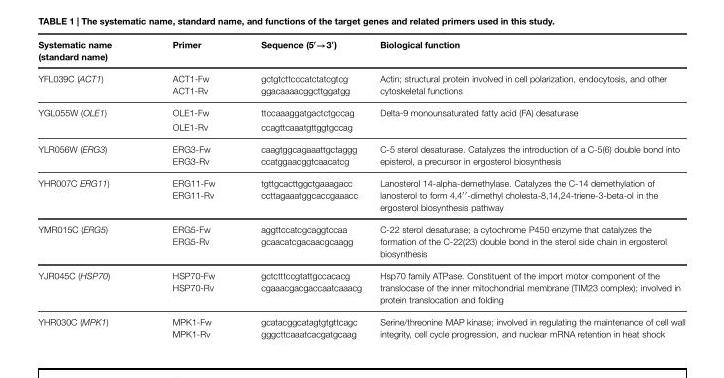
<table><thead><tr><td>Systematic name (standard name)</td><td>Primer</td><td>Sequence (5′→3′)</td><td>Biological function</td></tr></thead><tbody><tr><td>YFL039C (ACT1)</td><td>ACT1-Fw ACT1-Rv</td><td>gctgtcttcccatctatcgtcg ggacaaaacggcttggatgg</td><td>Actin; structural protein involved in cell polarization, endocytosis, and other cytoskeletal functions</td></tr><tr><td rowspan="2">YGL055W (OLE1)</td><td>OLE1-Fw</td><td>ttccaaaggatgactctgccag</td><td>Delta-9 monounsaturated fatty acid (FA) desaturase</td></tr><tr><td>OLE1-Rv</td><td>ccagttcaaatgttggtgccag</td><td></td></tr><tr><td>YLR056W (ERG3)</td><td>ERG3-Fw ERG3-Rv</td><td>caagtggcagaaattgctaggg ccatggaacggtcaacatcg</td><td>C-5 sterol desaturase. Catalyzes the introduction of a C-5(6) double bond into episterol, a precursor in ergosterol biosynthesis</td></tr><tr><td>YHR007C ERG11)</td><td>ERG11-Fw ERG11-Rv</td><td>tgttgcacttggctgaaagacc ccttagaaatggcaccgaaacc</td><td>Lanosterol 14-alpha-demethylase. Catalyzes the C-14 demethylation of lanosterol to form 4,4′′-dimethyl cholesta-8,14,24-triene-3-beta-ol in the ergosterol biosynthesis pathway</td></tr><tr><td>YMR015C (ERG5)</td><td>ERG5-Fw ERG5-Rv</td><td>aggttccatcgcaggtccaa gcaacatcgacaacgcaagg</td><td>C-22 sterol desaturase; a cytochrome P450 enzyme that catalyzes the formation of the C-22(23) double bond in the sterol side chain in ergosterol biosynthesis</td></tr><tr><td>YJR045C (HSP70)</td><td>HSP70-Fw HSP70-Rv</td><td>gctctttccgtattgccacacg cgaaacgacgaccaatcaaacg</td><td>Hsp70 family ATPase. Constituent of the import motor component of the translocase of the inner mitochondrial membrane (TIM23 complex); involved in protein translocation and folding</td></tr><tr><td>YHR030C (MPK1)</td><td>MPK1-Fw MPK1-Rv</td><td>gcatacggcatagtgtgttcagc gggcttcaaatcacgatgcaag</td><td>Serine/threonine MAP kinase; involved in regulating the maintenance of cell wall integrity, cell cycle progression, and nuclear mRNA retention in heat shock</td></tr></tbody></table>